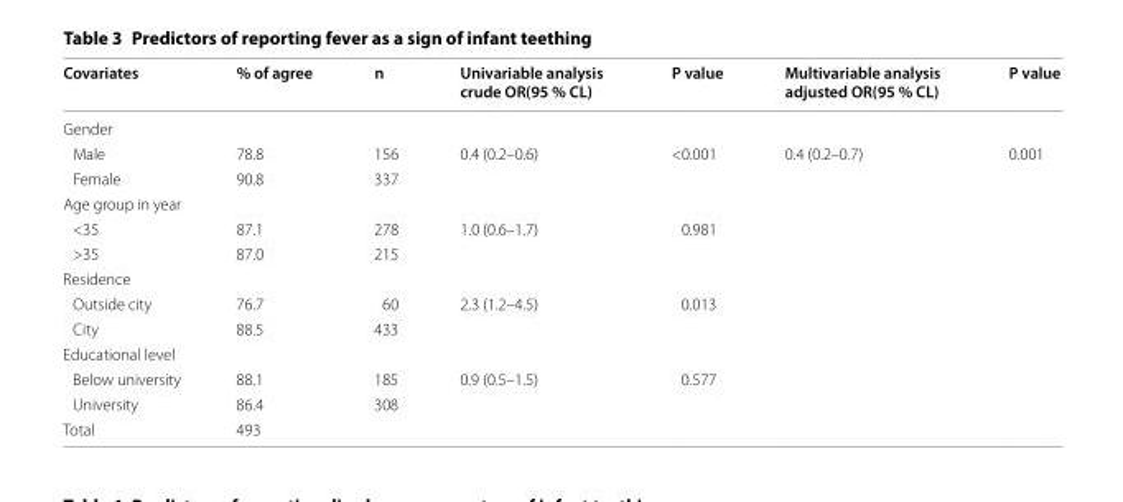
<table><thead><tr><td>Covariates</td><td>% of agree</td><td>n</td><td>Univariable analysis crude OR(95 % CL)</td><td>P value</td><td>Multivariable analysis adjusted OR(95 % CL)</td><td>P value</td></tr></thead><tbody><tr><td colspan="7">Gender</td></tr><tr><td>Male</td><td>78.8</td><td>156</td><td rowspan="2">0.4 (0.2–0.6)</td><td rowspan="2">&lt;0.001</td><td rowspan="2">0.4 (0.2–0.7)</td><td rowspan="2">0.001</td></tr><tr><td>Female</td><td>90.8</td><td>337</td></tr><tr><td colspan="7">Age group in year</td></tr><tr><td>&lt;35</td><td>87.1</td><td>278</td><td rowspan="2">1.0 (0.6–1.7)</td><td rowspan="2">0.981</td><td rowspan="2"></td><td rowspan="2"></td></tr><tr><td>&gt;35</td><td>87.0</td><td>215</td></tr><tr><td colspan="7">Residence</td></tr><tr><td>Outside city</td><td>76.7</td><td>60</td><td rowspan="2">2.3 (1.2–4.5)</td><td rowspan="2">0.013</td><td rowspan="2"></td><td rowspan="2"></td></tr><tr><td>City</td><td>88.5</td><td>433</td></tr><tr><td colspan="7">Educational level</td></tr><tr><td>Below university</td><td>88.1</td><td>185</td><td rowspan="2">0.9 (0.5–1.5)</td><td rowspan="2">0.577</td><td rowspan="2"></td><td rowspan="2"></td></tr><tr><td>University</td><td>86.4</td><td>308</td></tr><tr><td>Total</td><td>493</td><td></td><td></td><td></td><td></td><td></td></tr></tbody></table>